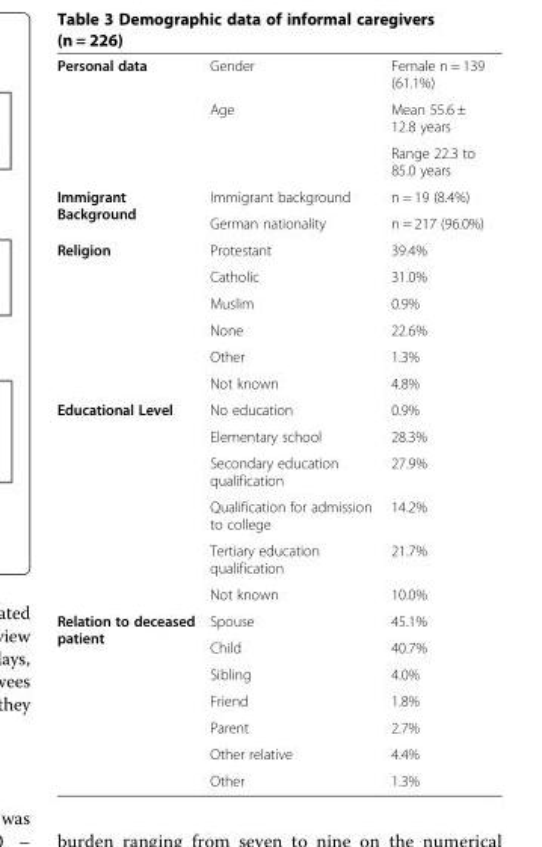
<table><tbody><tr><td rowspan="3">Personal data</td><td>Gender</td><td>Female n = 139 (61.1%)</td></tr><tr><td rowspan="2">Age</td><td>Mean 55.6 ± 12.8 years</td></tr><tr><td>Range 22.3 to 85.0 years</td></tr><tr><td rowspan="2">Immigrant Background</td><td>Immigrant background</td><td>n = 19 (8.4%)</td></tr><tr><td>German nationality</td><td>n = 217 (96.0%)</td></tr><tr><td rowspan="6">Religion</td><td>Protestant</td><td>39.4%</td></tr><tr><td>Catholic</td><td>31.0%</td></tr><tr><td>Muslim</td><td>0.9%</td></tr><tr><td>None</td><td>22.6%</td></tr><tr><td>Other</td><td>1.3%</td></tr><tr><td>Not known</td><td>4.8%</td></tr><tr><td rowspan="6">Educational Level</td><td>No education</td><td>0.9%</td></tr><tr><td>Elementary school</td><td>28.3%</td></tr><tr><td>Secondary education qualification</td><td>27.9%</td></tr><tr><td>Qualification for admission to college</td><td>14.2%</td></tr><tr><td>Tertiary education qualification</td><td>21.7%</td></tr><tr><td>Not known</td><td>10.0%</td></tr><tr><td rowspan="7">Relation to deceased patient</td><td>Spouse</td><td>45.1%</td></tr><tr><td>Child</td><td>40.7%</td></tr><tr><td>Sibling</td><td>4.0%</td></tr><tr><td>Friend</td><td>1.8%</td></tr><tr><td>Parent</td><td>2.7%</td></tr><tr><td>Other relative</td><td>4.4%</td></tr><tr><td>Other</td><td>1.3%</td></tr></tbody></table>